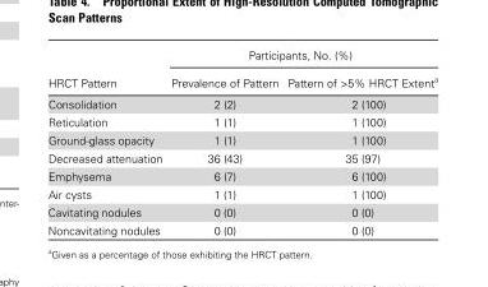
<table><thead><tr><td rowspan="2">HRCT Pattern</td><td colspan="2">Participants, No. (%)</td></tr><tr><td>Prevalence of Pattern</td><td>Pattern of &gt;5% HRCT Extent<sup>a</sup></td></tr></thead><tbody><tr><td>Consolidation</td><td>2 (2)</td><td>2 (100)</td></tr><tr><td>Reticulation</td><td>1 (1)</td><td>1 (100)</td></tr><tr><td>Ground-glass opacity</td><td>1 (1)</td><td>1 (100)</td></tr><tr><td>Decreased attenuation</td><td>36 (43)</td><td>35 (97)</td></tr><tr><td>Emphysema</td><td>6 (7)</td><td>6 (100)</td></tr><tr><td>Air cysts</td><td>1 (1)</td><td>1 (100)</td></tr><tr><td>Cavitating nodules</td><td>0 (0)</td><td>0 (0)</td></tr><tr><td>Noncavitating nodules</td><td>0 (0)</td><td>0 (0)</td></tr></tbody></table>